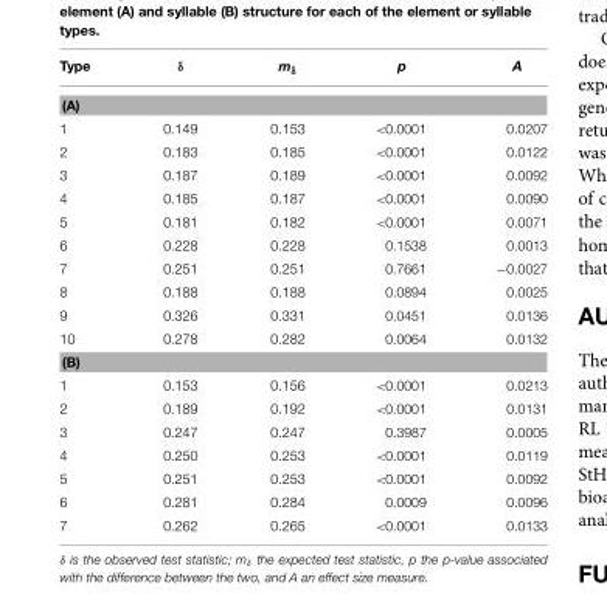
<table><thead><tr><td>Type</td><td>δ</td><td>m<sub>δ</sub></td><td>p</td><td>A</td></tr></thead><tbody><tr><td colspan="5">(A)</td></tr><tr><td>1</td><td>0.149</td><td>0.153</td><td>&lt;0.0001</td><td>0.0207</td></tr><tr><td>2</td><td>0.183</td><td>0.185</td><td>&lt;0.0001</td><td>0.0122</td></tr><tr><td>3</td><td>0.187</td><td>0.189</td><td>&lt;0.0001</td><td>0.0092</td></tr><tr><td>4</td><td>0.185</td><td>0.187</td><td>&lt;0.0001</td><td>0.0090</td></tr><tr><td>5</td><td>0.181</td><td>0.182</td><td>&lt;0.0001</td><td>0.0071</td></tr><tr><td>6</td><td>0.228</td><td>0.228</td><td>0.1538</td><td>0.0013</td></tr><tr><td>7</td><td>0.251</td><td>0.251</td><td>0.7661</td><td>−0.0027</td></tr><tr><td>8</td><td>0.188</td><td>0.188</td><td>0.0894</td><td>0.0025</td></tr><tr><td>9</td><td>0.326</td><td>0.331</td><td>0.0451</td><td>0.0136</td></tr><tr><td>10</td><td>0.278</td><td>0.282</td><td>0.0064</td><td>0.0132</td></tr><tr><td colspan="5">(B)</td></tr><tr><td>1</td><td>0.153</td><td>0.156</td><td>&lt;0.0001</td><td>0.0213</td></tr><tr><td>2</td><td>0.189</td><td>0.192</td><td>&lt;0.0001</td><td>0.0131</td></tr><tr><td>3</td><td>0.247</td><td>0.247</td><td>0.3987</td><td>0.0005</td></tr><tr><td>4</td><td>0.250</td><td>0.253</td><td>&lt;0.0001</td><td>0.0119</td></tr><tr><td>5</td><td>0.251</td><td>0.253</td><td>&lt;0.0001</td><td>0.0092</td></tr><tr><td>6</td><td>0.281</td><td>0.284</td><td>0.0009</td><td>0.0096</td></tr><tr><td>7</td><td>0.262</td><td>0.265</td><td>&lt;0.0001</td><td>0.0133</td></tr></tbody></table>